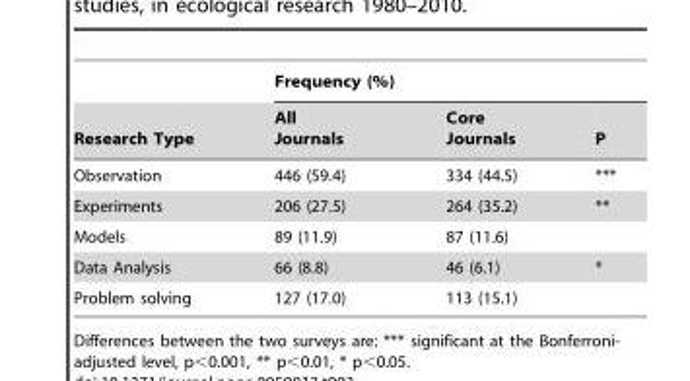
<table><thead><tr><td rowspan="2">Research Type</td><td colspan="3">Frequency (%)</td></tr><tr><td>All Journals</td><td>Core Journals</td><td>P</td></tr></thead><tbody><tr><td>Observation</td><td>446 (59.4)</td><td>334 (44.5)</td><td>***</td></tr><tr><td>Experiments</td><td>206 (27.5)</td><td>264 (35.2)</td><td>**</td></tr><tr><td>Models</td><td>89 (11.9)</td><td>87 (11.6)</td><td></td></tr><tr><td>Data Analysis</td><td>66 (8.8)</td><td>46 (6.1)</td><td>*</td></tr><tr><td>Problem solving</td><td>127 (17.0)</td><td>113 (15.1)</td><td></td></tr></tbody></table>